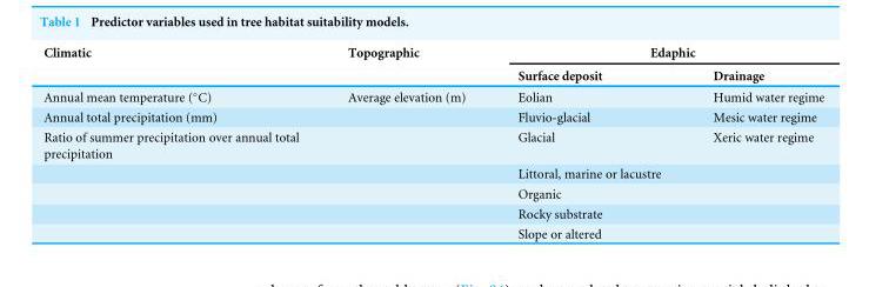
<table><thead><tr><td rowspan="2">Climatic</td><td rowspan="2">Topographic</td><td colspan="2">Edaphic</td></tr><tr><td>Surface deposit</td><td>Drainage</td></tr></thead><tbody><tr><td>Annual mean temperature (◦C)</td><td>Average elevation (m)</td><td>Eolian</td><td>Humid water regime</td></tr><tr><td>Annual total precipitation (mm)</td><td></td><td>Fluvio-glacial</td><td>Mesic water regime</td></tr><tr><td rowspan="5">Ratio of summer precipitation over annual total precipitation</td><td></td><td>Glacial</td><td>Xeric water regime</td></tr><tr><td></td><td>Littoral, marine or lacustre</td><td></td></tr><tr><td></td><td>Organic</td><td></td></tr><tr><td></td><td>Rocky substrate</td><td></td></tr><tr><td></td><td>Slope or altered</td><td></td></tr></tbody></table>